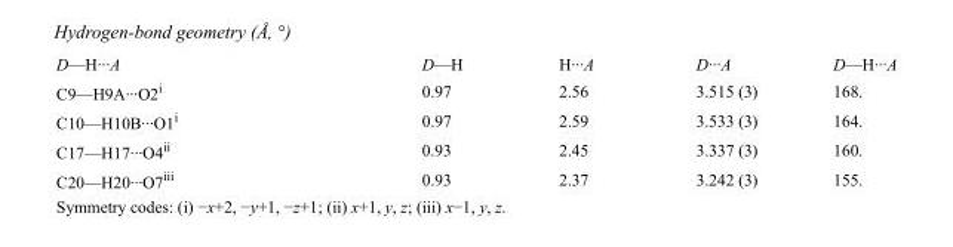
<table><tbody><tr><td>D—H···A</td><td>D—H</td><td>H···A</td><td>D···A</td><td>D—H···A</td></tr><tr><td>C9—H9A···O2<sup>i</sup></td><td>0.97</td><td>2.56</td><td>3.515 (3)</td><td>168.</td></tr><tr><td>C10—H10B···O1<sup>i</sup></td><td>0.97</td><td>2.59</td><td>3.533 (3)</td><td>164.</td></tr><tr><td>C17—H17···O4<sup>ii</sup></td><td>0.93</td><td>2.45</td><td>3.337 (3)</td><td>160.</td></tr><tr><td>C20—H20···O7<sup>iii</sup></td><td>0.93</td><td>2.37</td><td>3.242 (3)</td><td>155.</td></tr></tbody></table>